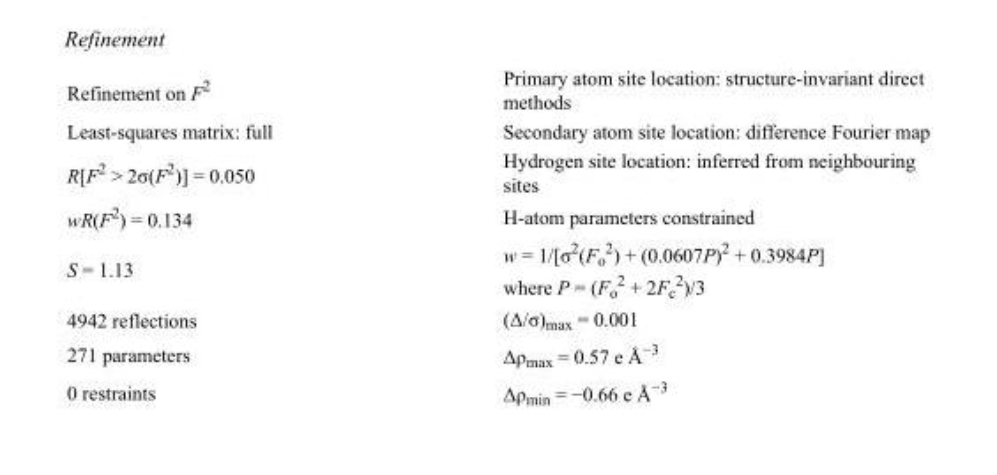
<table><tbody><tr><td>Refinement on F<sup>2</sup></td><td>Primary atom site location: structure-invariant direct methods</td></tr><tr><td>Least-squares matrix: full</td><td>Secondary atom site location: difference Fourier map</td></tr><tr><td>R[F<sup>2</sup> &gt; 2σ(F<sup>2</sup>)] = 0.050</td><td>Hydrogen site location: inferred from neighbouring sites</td></tr><tr><td>wR(F<sup>2</sup>) = 0.134</td><td>H-atom parameters constrained</td></tr><tr><td>S = 1.13</td><td>w = 1/[σ<sup>2</sup>(F<sub>o</sub> <sup>2</sup>) + (0.0607P)<sup>2</sup> + 0.3984P] where P = (F<sub>o</sub> <sup>2</sup> + 2F<sub>c</sub> <sup>2</sup>)/3</td></tr><tr><td>4942 reflections</td><td>(Δ/σ)<sub>max</sub> = 0.001</td></tr><tr><td>271 parameters</td><td>Δρ<sub>max</sub> = 0.57 e Å<sup>−3</sup></td></tr><tr><td>0 restraints</td><td>Δρ<sub>min</sub> = −0.66 e Å<sup>−3</sup></td></tr></tbody></table>